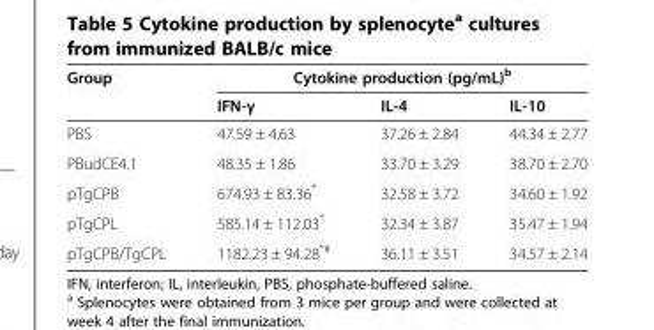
<table><thead><tr><td rowspan="2">Group</td><td colspan="3">Cytokine production (pg/mL)<sup>b</sup></td></tr><tr><td>IFN-γ</td><td>IL-4</td><td>IL-10</td></tr></thead><tbody><tr><td>PBS</td><td>47.59 ± 4.63</td><td>37.26 ± 2.84</td><td>44.34 ± 2.77</td></tr><tr><td>PBudCE4.1</td><td>48.35 ± 1.86</td><td>33.70 ± 3.29</td><td>38.70 ± 2.70</td></tr><tr><td>pTgCPB</td><td>674.93 ± 83.36*</td><td>32.58 ± 3.72</td><td>34.60 ± 1.92</td></tr><tr><td>pTgCPL</td><td>585.14 ± 112.03*</td><td>32.34 ± 3.87</td><td>35.47 ± 1.94</td></tr><tr><td>pTgCPB/TgCPL</td><td>1182.23 ± 94.28<sup>*#</sup></td><td>36.11 ± 3.51</td><td>34.57 ± 2.14</td></tr></tbody></table>